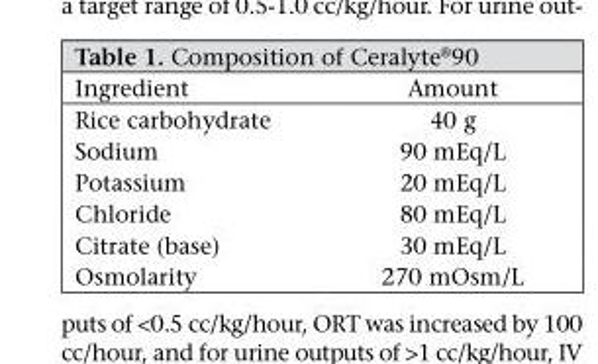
<table><thead><tr><td>Ingredient</td><td>Amount</td></tr></thead><tbody><tr><td>Rice carbohydrate</td><td>40 g</td></tr><tr><td>Sodium</td><td>90 mEq/L</td></tr><tr><td>Potassium</td><td>20 mEq/L</td></tr><tr><td>Chloride</td><td>80 mEq/L</td></tr><tr><td>Citrate (base)</td><td>30 mEq/L</td></tr><tr><td>Osmolarity</td><td>270 mOsm/L</td></tr></tbody></table>